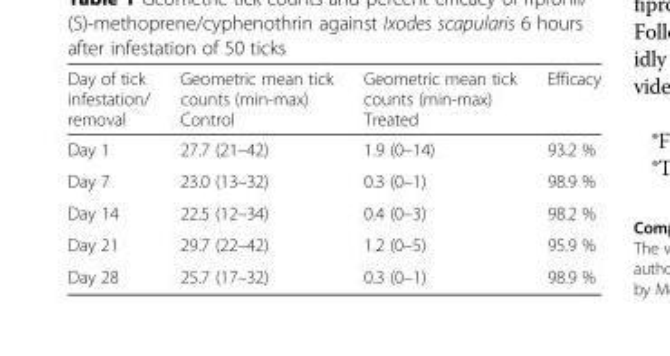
<table><thead><tr><td>Day of tick infestation/ removal</td><td>Geometric mean tick counts (min-max) Control</td><td>Geometric mean tick counts (min-max) Treated</td><td>Efficacy</td></tr></thead><tbody><tr><td>Day 1</td><td>27.7 (21–42)</td><td>1.9 (0–14)</td><td>93.2 %</td></tr><tr><td>Day 7</td><td>23.0 (13–32)</td><td>0.3 (0–1)</td><td>98.9 %</td></tr><tr><td>Day 14</td><td>22.5 (12–34)</td><td>0.4 (0–3)</td><td>98.2 %</td></tr><tr><td>Day 21</td><td>29.7 (22–42)</td><td>1.2 (0–5)</td><td>95.9 %</td></tr><tr><td>Day 28</td><td>25.7 (17–32)</td><td>0.3 (0–1)</td><td>98.9 %</td></tr></tbody></table>